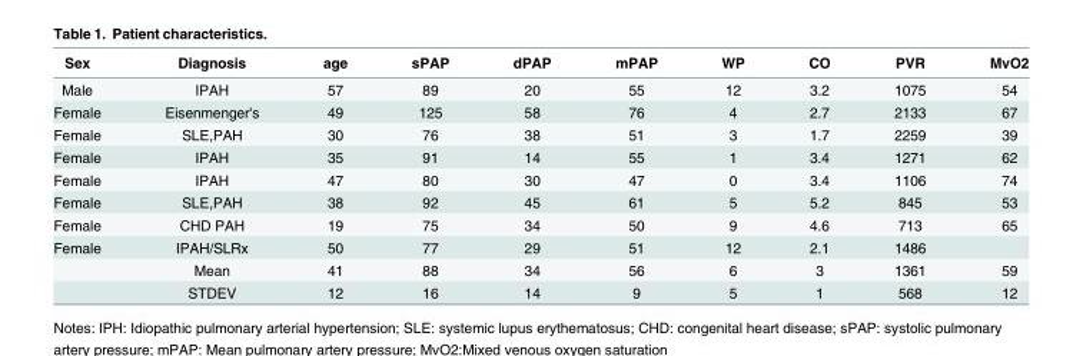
<table><thead><tr><td>Sex</td><td>Diagnosis</td><td>age</td><td>sPAP</td><td>dPAP</td><td>mPAP</td><td>WP</td><td>CO</td><td>PVR</td><td>MvO2</td></tr></thead><tbody><tr><td>Male</td><td>IPAH</td><td>57</td><td>89</td><td>20</td><td>55</td><td>12</td><td>3.2</td><td>1075</td><td>54</td></tr><tr><td>Female</td><td>Eisenmenger&#x27;s</td><td>49</td><td>125</td><td>58</td><td>76</td><td>4</td><td>2.7</td><td>2133</td><td>67</td></tr><tr><td>Female</td><td>SLE,PAH</td><td>30</td><td>76</td><td>38</td><td>51</td><td>3</td><td>1.7</td><td>2259</td><td>39</td></tr><tr><td>Female</td><td>IPAH</td><td>35</td><td>91</td><td>14</td><td>55</td><td>1</td><td>3.4</td><td>1271</td><td>62</td></tr><tr><td>Female</td><td>IPAH</td><td>47</td><td>80</td><td>30</td><td>47</td><td>0</td><td>3.4</td><td>1106</td><td>74</td></tr><tr><td>Female</td><td>SLE,PAH</td><td>38</td><td>92</td><td>45</td><td>61</td><td>5</td><td>5.2</td><td>845</td><td>53</td></tr><tr><td>Female</td><td>CHD PAH</td><td>19</td><td>75</td><td>34</td><td>50</td><td>9</td><td>4.6</td><td>713</td><td>65</td></tr><tr><td rowspan="3">Female</td><td>IPAH/SLRx</td><td>50</td><td>77</td><td>29</td><td>51</td><td>12</td><td>2.1</td><td>1486</td><td></td></tr><tr><td>Mean</td><td>41</td><td>88</td><td>34</td><td>56</td><td>6</td><td>3</td><td>1361</td><td>59</td></tr><tr><td>STDEV</td><td>12</td><td>16</td><td>14</td><td>9</td><td>5</td><td>1</td><td>568</td><td>12</td></tr></tbody></table>